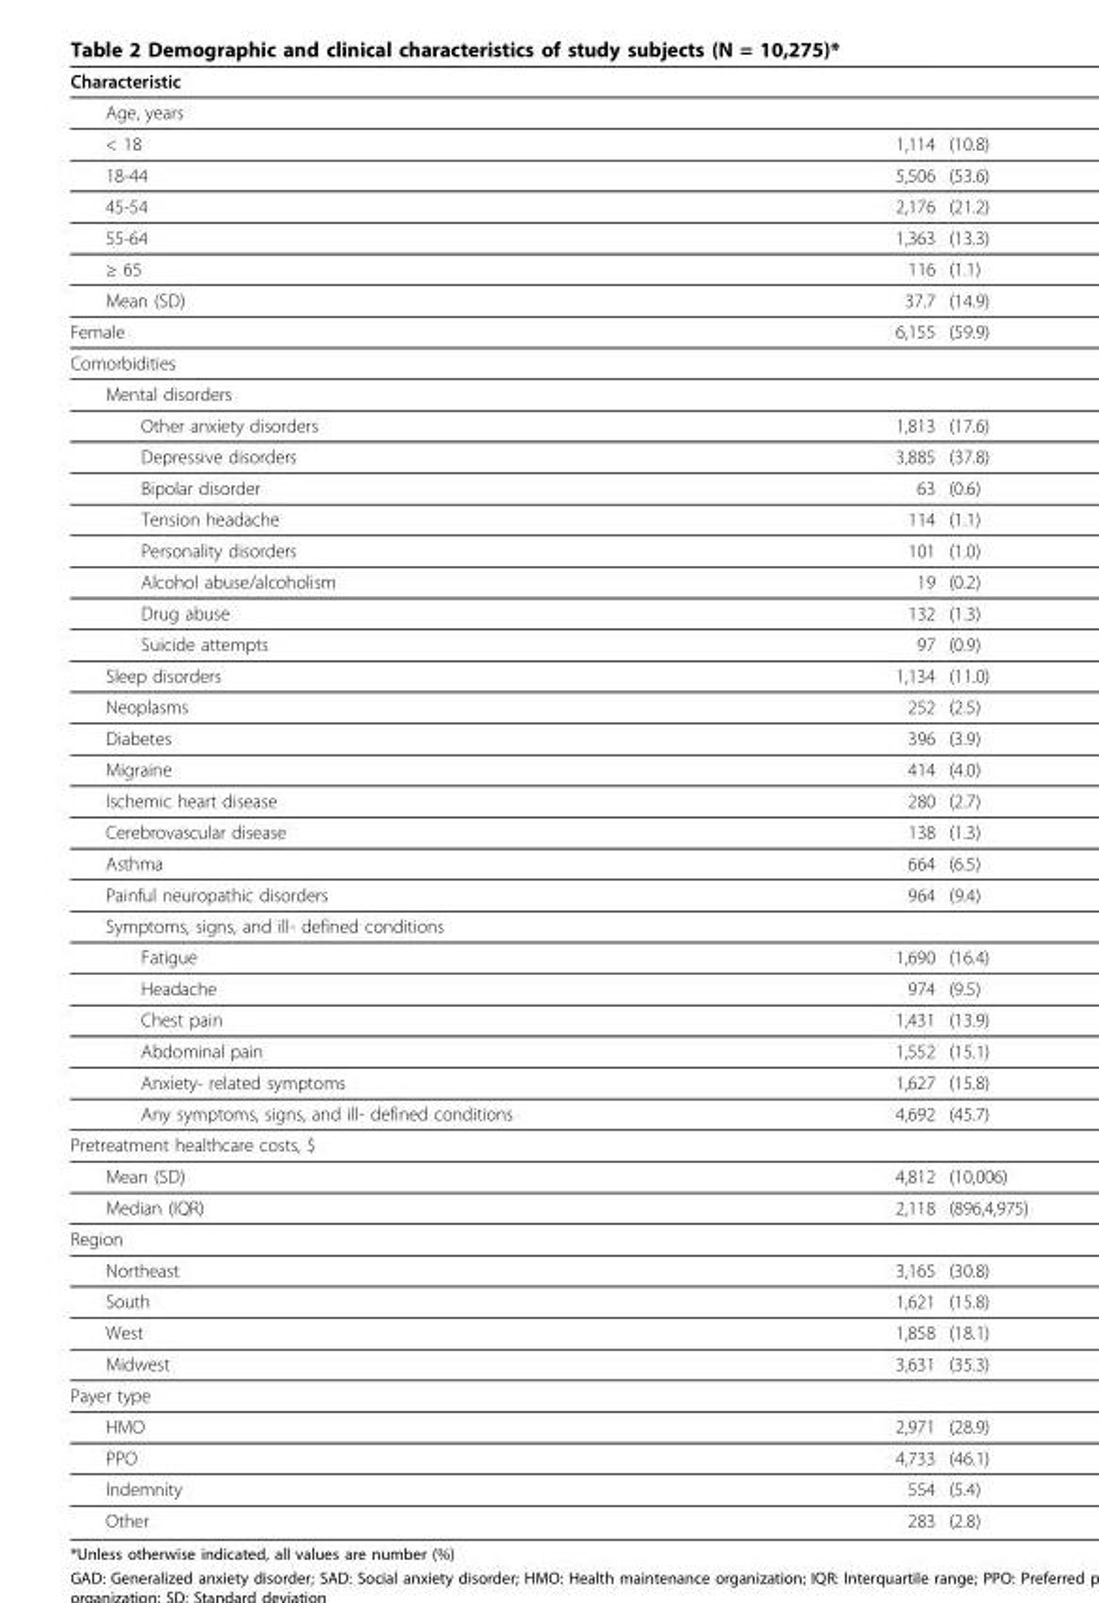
<table><thead><tr><td>Characteristic</td><td></td><td></td></tr></thead><tbody><tr><td colspan="3">Age, years</td></tr><tr><td>&lt; 18</td><td>1,114</td><td>(10.8)</td></tr><tr><td>18-44</td><td>5,506</td><td>(53.6)</td></tr><tr><td>45-54</td><td>2,176</td><td>(21.2)</td></tr><tr><td>55-64</td><td>1,363</td><td>(13.3)</td></tr><tr><td>≥ 65</td><td>116</td><td>(1.1)</td></tr><tr><td>Mean (SD)</td><td>37.7</td><td>(14.9)</td></tr><tr><td>Female</td><td>6,155</td><td>(59.9)</td></tr><tr><td colspan="3">Comorbidities</td></tr><tr><td colspan="3">Mental disorders</td></tr><tr><td>Other anxiety disorders</td><td>1,813</td><td>(17.6)</td></tr><tr><td>Depressive disorders</td><td>3,885</td><td>(37.8)</td></tr><tr><td>Bipolar disorder</td><td>63</td><td>(0.6)</td></tr><tr><td>Tension headache</td><td>114</td><td>(1.1)</td></tr><tr><td>Personality disorders</td><td>101</td><td>(1.0)</td></tr><tr><td>Alcohol abuse/alcoholism</td><td>19</td><td>(0.2)</td></tr><tr><td>Drug abuse</td><td>132</td><td>(1.3)</td></tr><tr><td>Suicide attempts</td><td>97</td><td>(0.9)</td></tr><tr><td>Sleep disorders</td><td>1,134</td><td>(11.0)</td></tr><tr><td>Neoplasms</td><td>252</td><td>(2.5)</td></tr><tr><td>Diabetes</td><td>396</td><td>(3.9)</td></tr><tr><td>Migraine</td><td>414</td><td>(4.0)</td></tr><tr><td>Ischemic heart disease</td><td>280</td><td>(2.7)</td></tr><tr><td>Cerebrovascular disease</td><td>138</td><td>(1.3)</td></tr><tr><td>Asthma</td><td>664</td><td>(6.5)</td></tr><tr><td>Painful neuropathic disorders</td><td>964</td><td>(9.4)</td></tr><tr><td colspan="3">Symptoms, signs, and ill- defined conditions</td></tr><tr><td>Fatigue</td><td>1,690</td><td>(16.4)</td></tr><tr><td>Headache</td><td>974</td><td>(9.5)</td></tr><tr><td>Chest pain</td><td>1,431</td><td>(13.9)</td></tr><tr><td>Abdominal pain</td><td>1,552</td><td>(15.1)</td></tr><tr><td>Anxiety- related symptoms</td><td>1,627</td><td>(15.8)</td></tr><tr><td>Any symptoms, signs, and ill- defined conditions</td><td>4,692</td><td>(45.7)</td></tr><tr><td colspan="3">Pretreatment healthcare costs, $</td></tr><tr><td>Mean (SD)</td><td>4,812</td><td>(10,006)</td></tr><tr><td>Median (IQR)</td><td>2,118</td><td>(896,4,975)</td></tr><tr><td colspan="3">Region</td></tr><tr><td>Northeast</td><td>3,165</td><td>(30.8)</td></tr><tr><td>South</td><td>1,621</td><td>(15.8)</td></tr><tr><td>West</td><td>1,858</td><td>(18.1)</td></tr><tr><td>Midwest</td><td>3,631</td><td>(35.3)</td></tr><tr><td colspan="3">Payer type</td></tr><tr><td>HMO</td><td>2,971</td><td>(28.9)</td></tr><tr><td>PPO</td><td>4,733</td><td>(46.1)</td></tr><tr><td>Indemnity</td><td>554</td><td>(5.4)</td></tr><tr><td>Other</td><td>283</td><td>(2.8)</td></tr></tbody></table>